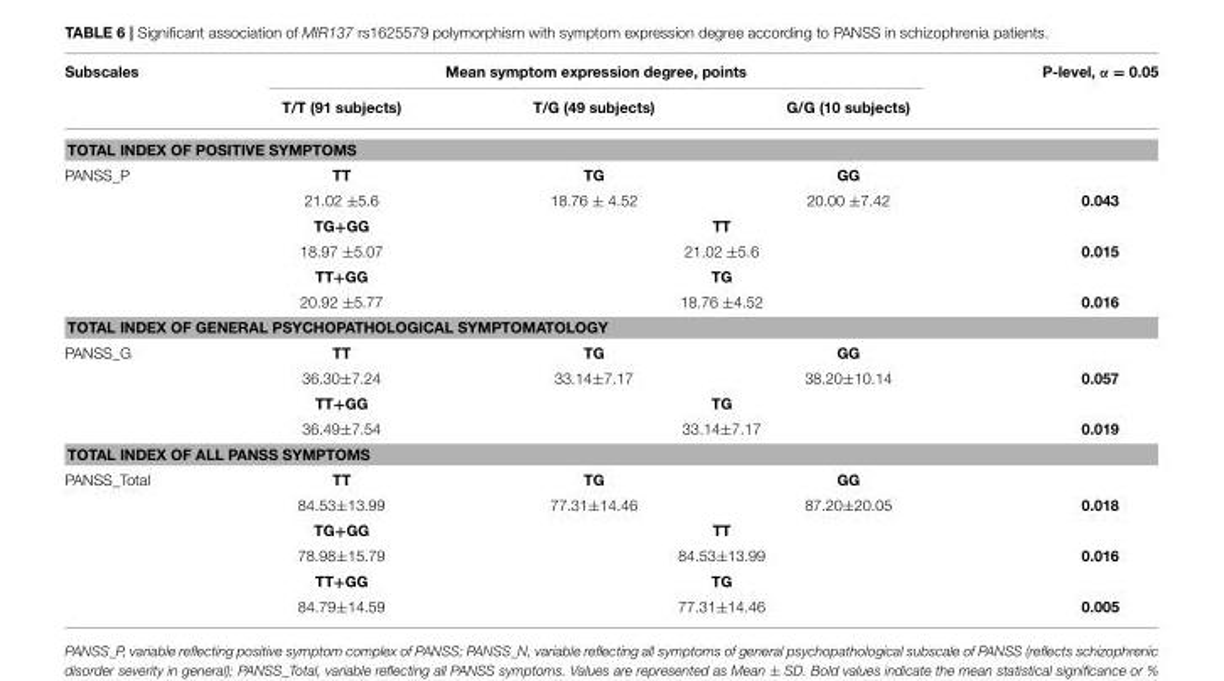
<table><thead><tr><td rowspan="2">Subscales</td><td colspan="3">Mean symptom expression degree, points</td><td rowspan="2">P-level, α = 0.05</td></tr><tr><td>T/T (91 subjects)</td><td>T/G (49 subjects)</td><td>G/G (10 subjects)</td></tr></thead><tbody><tr><td colspan="5">TOTAL INDEX OF POSITIVE SYMPTOMS</td></tr><tr><td rowspan="6">PANSS_P</td><td>TT</td><td>TG</td><td>GG</td><td></td></tr><tr><td>21.02 ±5.6</td><td>18.76 ± 4.52</td><td>20.00 ±7.42</td><td>0.043</td></tr><tr><td>TG+GG</td><td colspan="2">TT</td><td></td></tr><tr><td>18.97 ±5.07</td><td colspan="2">21.02 ±5.6</td><td>0.015</td></tr><tr><td>TT+GG</td><td colspan="2">TG</td><td></td></tr><tr><td>20.92 ±5.77</td><td colspan="2">18.76 ±4.52</td><td>0.016</td></tr><tr><td colspan="5">TOTAL INDEX OF GENERAL PSYCHOPATHOLOGICAL SYMPTOMATOLOGY</td></tr><tr><td rowspan="4">PANSS_G</td><td>TT</td><td>TG</td><td>GG</td><td></td></tr><tr><td>36.30±7.24</td><td>33.14±7.17</td><td>38.20±10.14</td><td>0.057</td></tr><tr><td>TT+GG</td><td colspan="2">TG</td><td></td></tr><tr><td>36.49±7.54</td><td colspan="2">33.14±7.17</td><td>0.019</td></tr><tr><td colspan="5">TOTAL INDEX OF ALL PANSS SYMPTOMS</td></tr><tr><td rowspan="6">PANSS_Total</td><td>TT</td><td>TG</td><td>GG</td><td></td></tr><tr><td>84.53±13.99</td><td>77.31±14.46</td><td>87.20±20.05</td><td>0.018</td></tr><tr><td>TG+GG</td><td colspan="2">TT</td><td></td></tr><tr><td>78.98±15.79</td><td colspan="2">84.53±13.99</td><td>0.016</td></tr><tr><td>TT+GG</td><td colspan="2">TG</td><td></td></tr><tr><td>84.79±14.59</td><td colspan="2">77.31±14.46</td><td>0.005</td></tr></tbody></table>